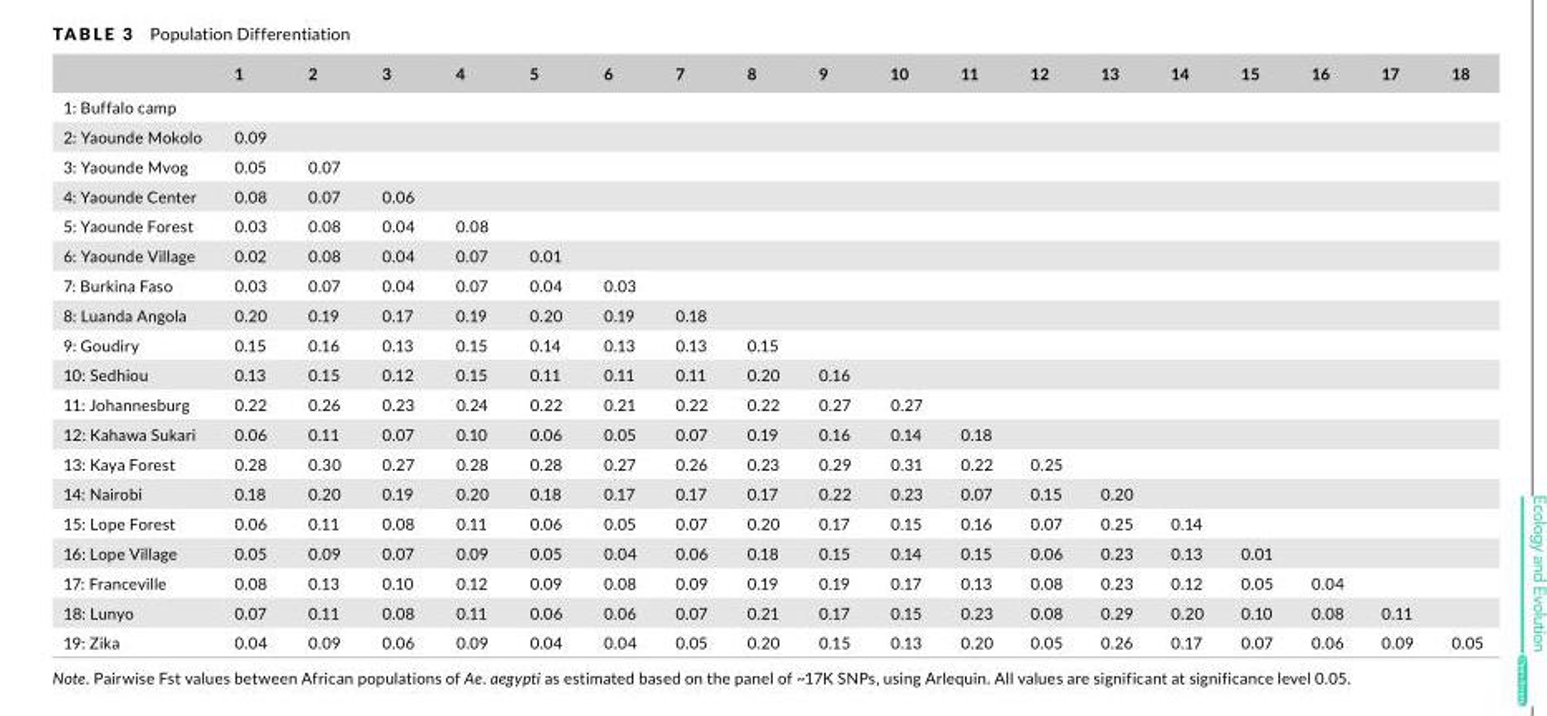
<table><thead><tr><td></td><td>1</td><td>2</td><td>3</td><td>4</td><td>5</td><td>6</td><td>7</td><td>8</td><td>9</td><td>10</td><td>11</td><td>12</td><td>13</td><td>14</td><td>15</td><td>16</td><td>17</td><td>18</td></tr></thead><tbody><tr><td colspan="19">1: Buffalo camp</td></tr><tr><td>2: Yaounde Mokolo</td><td>0.09</td><td></td><td></td><td></td><td></td><td></td><td></td><td></td><td></td><td></td><td></td><td></td><td></td><td></td><td></td><td></td><td></td><td></td></tr><tr><td>3: Yaounde Mvog</td><td>0.05</td><td>0.07</td><td></td><td></td><td></td><td></td><td></td><td></td><td></td><td></td><td></td><td></td><td></td><td></td><td></td><td></td><td></td><td></td></tr><tr><td>4: Yaounde Center</td><td>0.08</td><td>0.07</td><td>0.06</td><td></td><td></td><td></td><td></td><td></td><td></td><td></td><td></td><td></td><td></td><td></td><td></td><td></td><td></td><td></td></tr><tr><td>5: Yaounde Forest</td><td>0.03</td><td>0.08</td><td>0.04</td><td>0.08</td><td></td><td></td><td></td><td></td><td></td><td></td><td></td><td></td><td></td><td></td><td></td><td></td><td></td><td></td></tr><tr><td>6: Yaounde Village</td><td>0.02</td><td>0.08</td><td>0.04</td><td>0.07</td><td>0.01</td><td></td><td></td><td></td><td></td><td></td><td></td><td></td><td></td><td></td><td></td><td></td><td></td><td></td></tr><tr><td>7: Burkina Faso</td><td>0.03</td><td>0.07</td><td>0.04</td><td>0.07</td><td>0.04</td><td>0.03</td><td></td><td></td><td></td><td></td><td></td><td></td><td></td><td></td><td></td><td></td><td></td><td></td></tr><tr><td>8: Luanda Angola</td><td>0.20</td><td>0.19</td><td>0.17</td><td>0.19</td><td>0.20</td><td>0.19</td><td>0.18</td><td></td><td></td><td></td><td></td><td></td><td></td><td></td><td></td><td></td><td></td><td></td></tr><tr><td>9: Goudiry</td><td>0.15</td><td>0.16</td><td>0.13</td><td>0.15</td><td>0.14</td><td>0.13</td><td>0.13</td><td>0.15</td><td></td><td></td><td></td><td></td><td></td><td></td><td></td><td></td><td></td><td></td></tr><tr><td>10: Sedhiou</td><td>0.13</td><td>0.15</td><td>0.12</td><td>0.15</td><td>0.11</td><td>0.11</td><td>0.11</td><td>0.20</td><td>0.16</td><td></td><td></td><td></td><td></td><td></td><td></td><td></td><td></td><td></td></tr><tr><td>11: Johannesburg</td><td>0.22</td><td>0.26</td><td>0.23</td><td>0.24</td><td>0.22</td><td>0.21</td><td>0.22</td><td>0.22</td><td>0.27</td><td>0.27</td><td></td><td></td><td></td><td></td><td></td><td></td><td></td><td></td></tr><tr><td>12: Kahawa Sukari</td><td>0.06</td><td>0.11</td><td>0.07</td><td>0.10</td><td>0.06</td><td>0.05</td><td>0.07</td><td>0.19</td><td>0.16</td><td>0.14</td><td>0.18</td><td></td><td></td><td></td><td></td><td></td><td></td><td></td></tr><tr><td>13: Kaya Forest</td><td>0.28</td><td>0.30</td><td>0.27</td><td>0.28</td><td>0.28</td><td>0.27</td><td>0.26</td><td>0.23</td><td>0.29</td><td>0.31</td><td>0.22</td><td>0.25</td><td></td><td></td><td></td><td></td><td></td><td></td></tr><tr><td>14: Nairobi</td><td>0.18</td><td>0.20</td><td>0.19</td><td>0.20</td><td>0.18</td><td>0.17</td><td>0.17</td><td>0.17</td><td>0.22</td><td>0.23</td><td>0.07</td><td>0.15</td><td>0.20</td><td></td><td></td><td></td><td></td><td></td></tr><tr><td>15: Lope Forest</td><td>0.06</td><td>0.11</td><td>0.08</td><td>0.11</td><td>0.06</td><td>0.05</td><td>0.07</td><td>0.20</td><td>0.17</td><td>0.15</td><td>0.16</td><td>0.07</td><td>0.25</td><td>0.14</td><td></td><td></td><td></td><td></td></tr><tr><td>16: Lope Village</td><td>0.05</td><td>0.09</td><td>0.07</td><td>0.09</td><td>0.05</td><td>0.04</td><td>0.06</td><td>0.18</td><td>0.15</td><td>0.14</td><td>0.15</td><td>0.06</td><td>0.23</td><td>0.13</td><td>0.01</td><td></td><td></td><td></td></tr><tr><td>17: Franceville</td><td>0.08</td><td>0.13</td><td>0.10</td><td>0.12</td><td>0.09</td><td>0.08</td><td>0.09</td><td>0.19</td><td>0.19</td><td>0.17</td><td>0.13</td><td>0.08</td><td>0.23</td><td>0.12</td><td>0.05</td><td>0.04</td><td></td><td></td></tr><tr><td>18: Lunyo</td><td>0.07</td><td>0.11</td><td>0.08</td><td>0.11</td><td>0.06</td><td>0.06</td><td>0.07</td><td>0.21</td><td>0.17</td><td>0.15</td><td>0.23</td><td>0.08</td><td>0.29</td><td>0.20</td><td>0.10</td><td>0.08</td><td>0.11</td><td></td></tr><tr><td>19: Zika</td><td>0.04</td><td>0.09</td><td>0.06</td><td>0.09</td><td>0.04</td><td>0.04</td><td>0.05</td><td>0.20</td><td>0.15</td><td>0.13</td><td>0.20</td><td>0.05</td><td>0.26</td><td>0.17</td><td>0.07</td><td>0.06</td><td>0.09</td><td>0.05</td></tr></tbody></table>